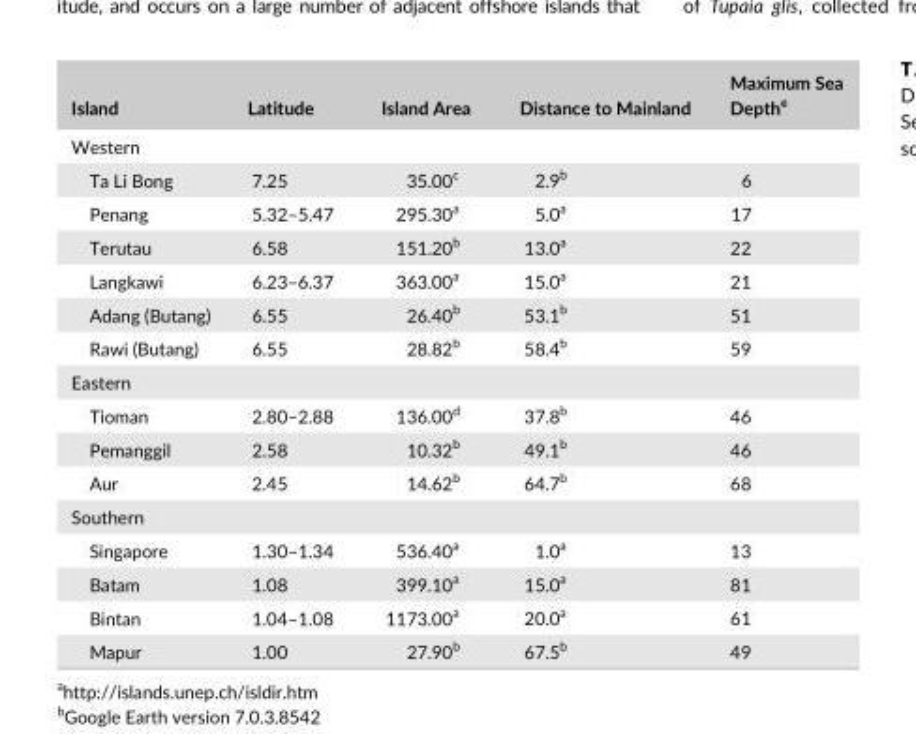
<table><thead><tr><td>Island</td><td>Latitude</td><td>Island Area</td><td>Distance to Mainland</td><td>Maximum Sea Depth<sup>e</sup></td></tr></thead><tbody><tr><td colspan="5">Western</td></tr><tr><td>Ta Li Bong</td><td>7.25</td><td>35.00<sup>c</sup></td><td>2.9<sup>b</sup></td><td>6</td></tr><tr><td>Penang</td><td>5.32–5.47</td><td>295.30<sup>a</sup></td><td>5.0<sup>a</sup></td><td>17</td></tr><tr><td>Terutau</td><td>6.58</td><td>151.20<sup>b</sup></td><td>13.0<sup>a</sup></td><td>22</td></tr><tr><td>Langkawi</td><td>6.23–6.37</td><td>363.00<sup>a</sup></td><td>15.0<sup>a</sup></td><td>21</td></tr><tr><td>Adang (Butang)</td><td>6.55</td><td>26.40<sup>b</sup></td><td>53.1<sup>b</sup></td><td>51</td></tr><tr><td>Rawi (Butang)</td><td>6.55</td><td>28.82<sup>b</sup></td><td>58.4<sup>b</sup></td><td>59</td></tr><tr><td colspan="5">Eastern</td></tr><tr><td>Tioman</td><td>2.80–2.88</td><td>136.00<sup>d</sup></td><td>37.8<sup>b</sup></td><td>46</td></tr><tr><td>Pemanggil</td><td>2.58</td><td>10.32<sup>b</sup></td><td>49.1<sup>b</sup></td><td>46</td></tr><tr><td>Aur</td><td>2.45</td><td>14.62<sup>b</sup></td><td>64.7<sup>b</sup></td><td>68</td></tr><tr><td colspan="5">Southern</td></tr><tr><td>Singapore</td><td>1.30–1.34</td><td>536.40<sup>a</sup></td><td>1.0<sup>a</sup></td><td>13</td></tr><tr><td>Batam</td><td>1.08</td><td>399.10<sup>a</sup></td><td>15.0<sup>a</sup></td><td>81</td></tr><tr><td>Bintan</td><td>1.04–1.08</td><td>1173.00<sup>a</sup></td><td>20.0<sup>a</sup></td><td>61</td></tr><tr><td>Mapur</td><td>1.00</td><td>27.90<sup>b</sup></td><td>67.5<sup>b</sup></td><td>49</td></tr></tbody></table>